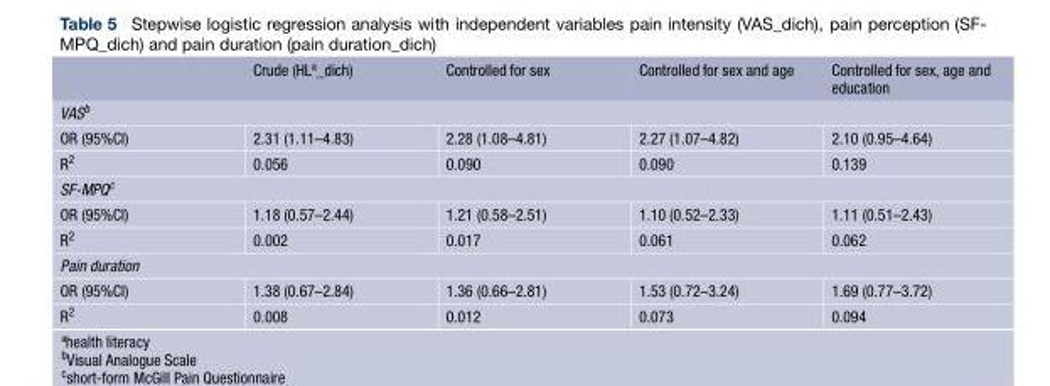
<table><thead><tr><td></td><td>Crude (HLª_dich)</td><td>Controlled for sex</td><td>Controlled for sex and age</td><td>Controlled for sex, age and education</td></tr></thead><tbody><tr><td colspan="5">VAS<sup>b</sup></td></tr><tr><td>OR (95%CI)</td><td>2.31 (1.11–4.83)</td><td>2.28 (1.08–4.81)</td><td>2.27 (1.07–4.82)</td><td>2.10 (0.95–4.64)</td></tr><tr><td>R<sup>2</sup></td><td>0.056</td><td>0.090</td><td>0.090</td><td>0.139</td></tr><tr><td colspan="5">SF-MPQ<sup>c</sup></td></tr><tr><td>OR (95%CI)</td><td>1.18 (0.57–2.44)</td><td>1.21 (0.58–2.51)</td><td>1.10 (0.52–2.33)</td><td>1.11 (0.51–2.43)</td></tr><tr><td>R<sup>2</sup></td><td>0.002</td><td>0.017</td><td>0.061</td><td>0.062</td></tr><tr><td colspan="5">Pain duration</td></tr><tr><td>OR (95%CI)</td><td>1.38 (0.67–2.84)</td><td>1.36 (0.66–2.81)</td><td>1.53 (0.72–3.24)</td><td>1.69 (0.77–3.72)</td></tr><tr><td>R<sup>2</sup></td><td>0.008</td><td>0.012</td><td>0.073</td><td>0.094</td></tr></tbody></table>